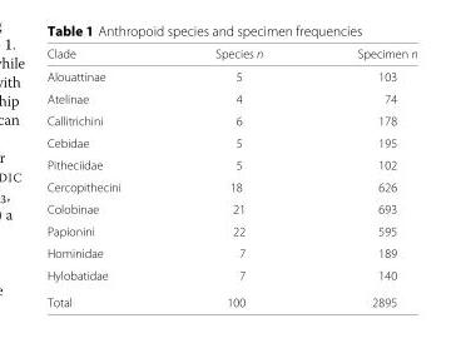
<table><thead><tr><td>Clade</td><td>Species n</td><td>Specimen n</td></tr></thead><tbody><tr><td>Alouattinae</td><td>5</td><td>103</td></tr><tr><td>Atelinae</td><td>4</td><td>74</td></tr><tr><td>Callitrichini</td><td>6</td><td>178</td></tr><tr><td>Cebidae</td><td>5</td><td>195</td></tr><tr><td>Pitheciidae</td><td>5</td><td>102</td></tr><tr><td>Cercopithecini</td><td>18</td><td>626</td></tr><tr><td>Colobinae</td><td>21</td><td>693</td></tr><tr><td>Papionini</td><td>22</td><td>595</td></tr><tr><td>Hominidae</td><td>7</td><td>189</td></tr><tr><td>Hylobatidae</td><td>7</td><td>140</td></tr><tr><td>Total</td><td>100</td><td>2895</td></tr></tbody></table>